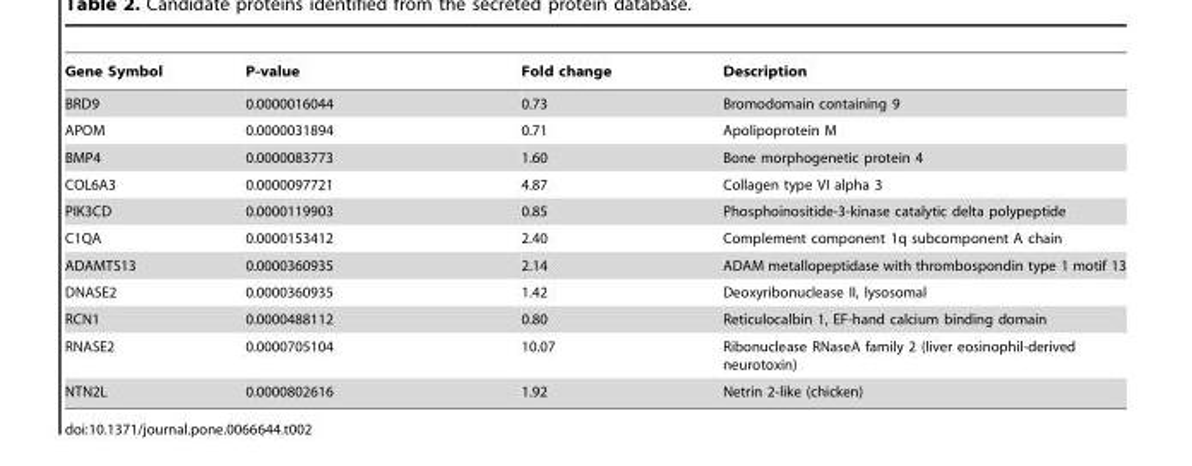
<table><thead><tr><td>Gene Symbol</td><td>P-value</td><td>Fold change</td><td>Description</td></tr></thead><tbody><tr><td>BRD9</td><td>0.0000016044</td><td>0.73</td><td>Bromodomain containing 9</td></tr><tr><td>APOM</td><td>0.0000031894</td><td>0.71</td><td>Apolipoprotein M</td></tr><tr><td>BMP4</td><td>0.0000083773</td><td>1.60</td><td>Bone morphogenetic protein 4</td></tr><tr><td>COL6A3</td><td>0.0000097721</td><td>4.87</td><td>Collagen type VI alpha 3</td></tr><tr><td>PIK3CD</td><td>0.0000119903</td><td>0.85</td><td>Phosphoinositide-3-kinase catalytic delta polypeptide</td></tr><tr><td>C1QA</td><td>0.0000153412</td><td>2.40</td><td>Complement component 1q subcomponent A chain</td></tr><tr><td>ADAMTS13</td><td>0.0000360935</td><td>2.14</td><td>ADAM metallopeptidase with thrombospondin type 1 motif 13</td></tr><tr><td>DNASE2</td><td>0.0000360935</td><td>1.42</td><td>Deoxyribonuclease II, lysosomal</td></tr><tr><td>RCN1</td><td>0.0000488112</td><td>0.80</td><td>Reticulocalbin 1, EF-hand calcium binding domain</td></tr><tr><td>RNASE2</td><td>0.0000705104</td><td>10.07</td><td>Ribonuclease RNaseA family 2 (liver eosinophil-derived neurotoxin)</td></tr><tr><td>NTN2L</td><td>0.0000802616</td><td>1.92</td><td>Netrin 2-like (chicken)</td></tr></tbody></table>